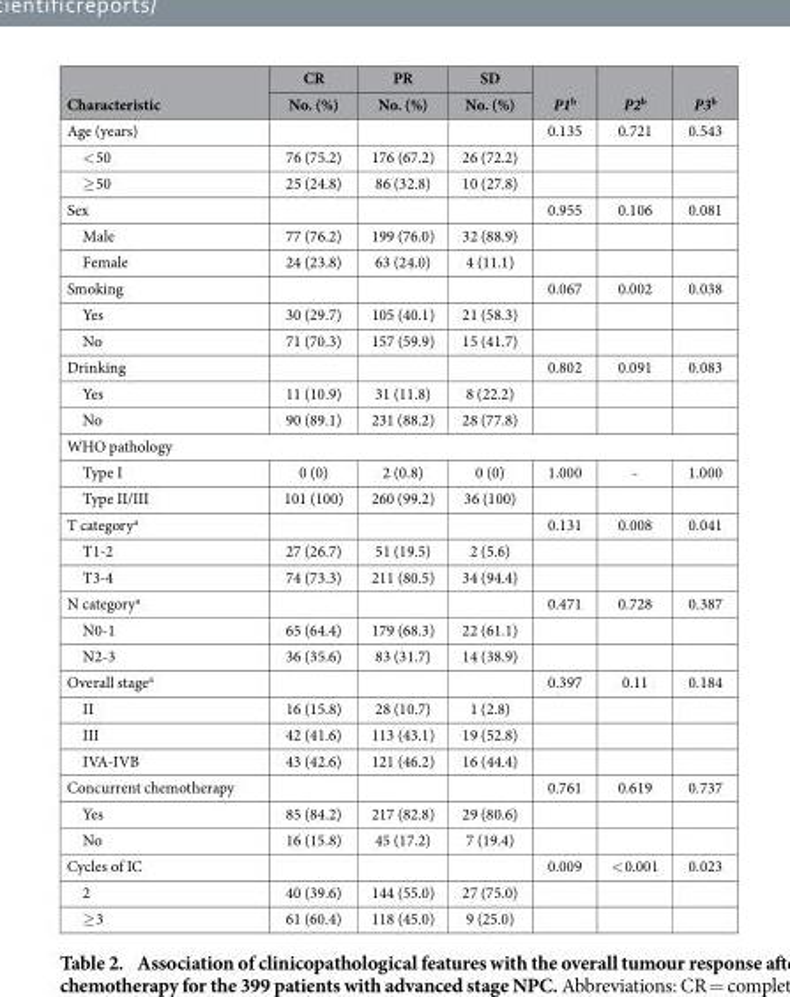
<table><thead><tr><td rowspan="2">Characteristic</td><td rowspan="2">CR No. (%)</td><td rowspan="2">PR No. (%)</td><td rowspan="2">SD No. (%)</td><td rowspan="2">P1<sup>b</sup></td><td rowspan="2">P2<sup>b</sup></td><td rowspan="2">P3<sup>b</sup></td></tr><tr></tr></thead><tbody><tr><td>Age (years)</td><td></td><td></td><td></td><td>0.135</td><td>0.721</td><td>0.543</td></tr><tr><td>&lt; 50</td><td>76 (75.2)</td><td>176 (67.2)</td><td>26 (72.2)</td><td></td><td></td><td></td></tr><tr><td>≥ 50</td><td>25 (24.8)</td><td>86 (32.8)</td><td>10 (27.8)</td><td></td><td></td><td></td></tr><tr><td>Sex</td><td></td><td></td><td></td><td>0.955</td><td>0.106</td><td>0.081</td></tr><tr><td>Male</td><td>77 (76.2)</td><td>199 (76.0)</td><td>32 (88.9)</td><td></td><td></td><td></td></tr><tr><td>Female</td><td>24 (23.8)</td><td>63 (24.0)</td><td>4 (11.1)</td><td></td><td></td><td></td></tr><tr><td>Smoking</td><td></td><td></td><td></td><td>0.067</td><td>0.002</td><td>0.038</td></tr><tr><td>Yes</td><td>30 (29.7)</td><td>105 (40.1)</td><td>21 (58.3)</td><td></td><td></td><td></td></tr><tr><td>No</td><td>71 (70.3)</td><td>157 (59.9)</td><td>15 (41.7)</td><td></td><td></td><td></td></tr><tr><td>Drinking</td><td></td><td></td><td></td><td>0.802</td><td>0.091</td><td>0.083</td></tr><tr><td>Yes</td><td>11 (10.9)</td><td>31 (11.8)</td><td>8 (22.2)</td><td></td><td></td><td></td></tr><tr><td>No</td><td>90 (89.1)</td><td>231 (88.2)</td><td>28 (77.8)</td><td></td><td></td><td></td></tr><tr><td colspan="7">WHO pathology</td></tr><tr><td>Type I</td><td>0 (0)</td><td>2 (0.8)</td><td>0 (0)</td><td>1.000</td><td>-</td><td>1.000</td></tr><tr><td>Type II/III</td><td>101 (100)</td><td>260 (99.2)</td><td>36 (100)</td><td></td><td></td><td></td></tr><tr><td>T category<sup>a</sup></td><td></td><td></td><td></td><td>0.131</td><td>0.008</td><td>0.041</td></tr><tr><td>T1-2</td><td>27 (26.7)</td><td>51 (19.5)</td><td>2 (5.6)</td><td></td><td></td><td></td></tr><tr><td>T3-4</td><td>74 (73.3)</td><td>211 (80.5)</td><td>34 (94.4)</td><td></td><td></td><td></td></tr><tr><td>N category<sup>a</sup></td><td></td><td></td><td></td><td>0.471</td><td>0.728</td><td>0.387</td></tr><tr><td>N0-1</td><td>65 (64.4)</td><td>179 (68.3)</td><td>22 (61.1)</td><td></td><td></td><td></td></tr><tr><td>N2-3</td><td>36 (35.6)</td><td>83 (31.7)</td><td>14 (38.9)</td><td></td><td></td><td></td></tr><tr><td>Overall stage<sup>a</sup></td><td></td><td></td><td></td><td>0.397</td><td>0.11</td><td>0.184</td></tr><tr><td>II</td><td>16 (15.8)</td><td>28 (10.7)</td><td>1 (2.8)</td><td></td><td></td><td></td></tr><tr><td>III</td><td>42 (41.6)</td><td>113 (43.1)</td><td>19 (52.8)</td><td></td><td></td><td></td></tr><tr><td>IVA-IVB</td><td>43 (42.6)</td><td>121 (46.2)</td><td>16 (44.4)</td><td></td><td></td><td></td></tr><tr><td>Concurrent chemotherapy</td><td></td><td></td><td></td><td>0.761</td><td>0.619</td><td>0.737</td></tr><tr><td>Yes</td><td>85 (84.2)</td><td>217 (82.8)</td><td>29 (80.6)</td><td></td><td></td><td></td></tr><tr><td>No</td><td>16 (15.8)</td><td>45 (17.2)</td><td>7 (19.4)</td><td></td><td></td><td></td></tr><tr><td>Cycles of IC</td><td></td><td></td><td></td><td>0.009</td><td>&lt; 0.001</td><td>0.023</td></tr><tr><td>2</td><td>40 (39.6)</td><td>144 (55.0)</td><td>27 (75.0)</td><td></td><td></td><td></td></tr><tr><td>≥ 3</td><td>61 (60.4)</td><td>118 (45.0)</td><td>9 (25.0)</td><td></td><td></td><td></td></tr></tbody></table>